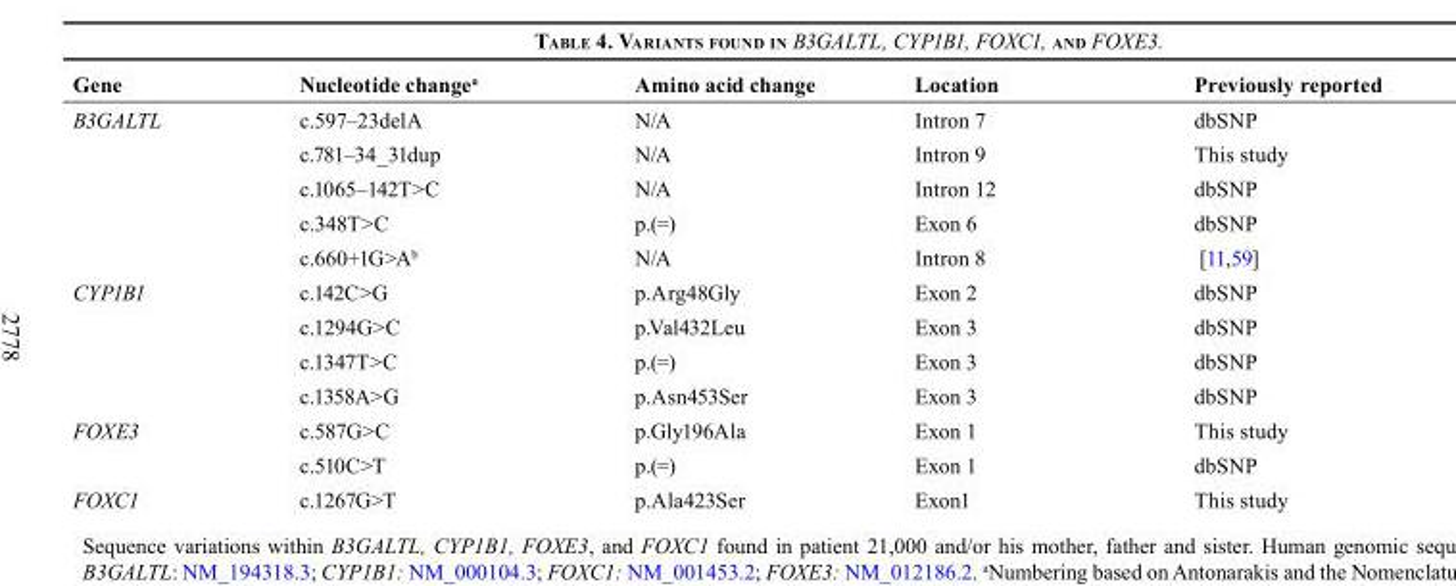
<table><thead><tr><td>Gene</td><td>Nucleotide change<sup>a</sup></td><td>Amino acid change</td><td>Location</td><td>Previously reported</td></tr></thead><tbody><tr><td rowspan="5">B3GALTL</td><td>c.597–23delA</td><td>N/A</td><td>Intron 7</td><td>dbSNP</td></tr><tr><td>c.781–34_31dup</td><td>N/A</td><td>Intron 9</td><td>This study</td></tr><tr><td>c.1065–142T&gt;C</td><td>N/A</td><td>Intron 12</td><td>dbSNP</td></tr><tr><td>c.348T&gt;C</td><td>p.(=)</td><td>Exon 6</td><td>dbSNP</td></tr><tr><td>c.660+1G&gt;A<sup>b</sup></td><td>N/A</td><td>Intron 8</td><td>[11,59]</td></tr><tr><td rowspan="4">CYP1B1</td><td>c.142C&gt;G</td><td>p.Arg48Gly</td><td>Exon 2</td><td>dbSNP</td></tr><tr><td>c.1294G&gt;C</td><td>p.Val432Leu</td><td>Exon 3</td><td>dbSNP</td></tr><tr><td>c.1347T&gt;C</td><td>p.(=)</td><td>Exon 3</td><td>dbSNP</td></tr><tr><td>c.1358A&gt;G</td><td>p.Asn453Ser</td><td>Exon 3</td><td>dbSNP</td></tr><tr><td rowspan="2">FOXE3</td><td>c.587G&gt;C</td><td>p.Gly196Ala</td><td>Exon 1</td><td>This study</td></tr><tr><td>c.510C&gt;T</td><td>p.(=)</td><td>Exon 1</td><td>dbSNP</td></tr><tr><td>FOXC1</td><td>c.1267G&gt;T</td><td>p.Ala423Ser</td><td>Exon1</td><td>This study</td></tr></tbody></table>